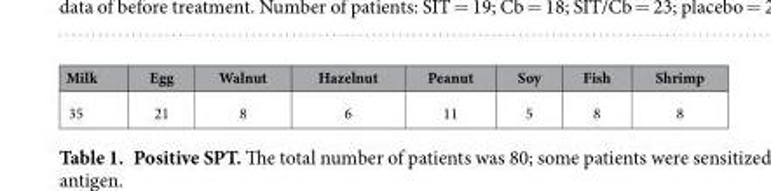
<table><thead><tr><td>Milk</td><td>Egg</td><td>Walnut</td><td>Hazelnut</td><td>Peanut</td><td>Soy</td><td>Fish</td><td>Shrimp</td></tr></thead><tbody><tr><td>35</td><td>21</td><td>8</td><td>6</td><td>11</td><td>5</td><td>8</td><td>8</td></tr></tbody></table>